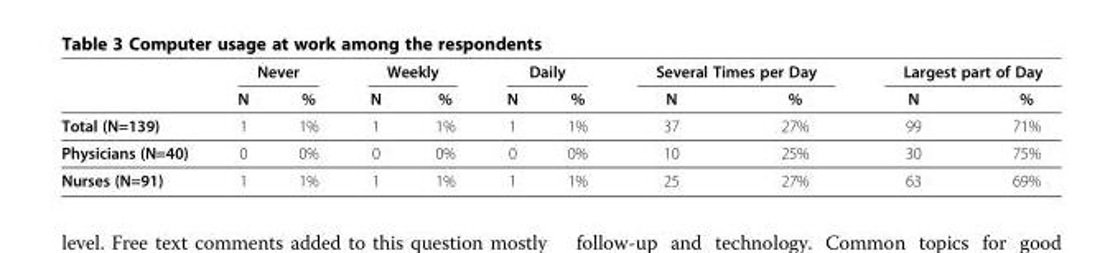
<table><thead><tr><td rowspan="2"></td><td colspan="2">Never</td><td colspan="2">Weekly</td><td colspan="2">Daily</td><td colspan="2">Several Times per Day</td><td colspan="2">Largest part of Day</td></tr><tr><td>N</td><td>%</td><td>N</td><td>%</td><td>N</td><td>%</td><td>N</td><td>%</td><td>N</td><td>%</td></tr></thead><tbody><tr><td>Total (N=139)</td><td>1</td><td>1%</td><td>1</td><td>1%</td><td>1</td><td>1%</td><td>37</td><td>27%</td><td>99</td><td>71%</td></tr><tr><td>Physicians (N=40)</td><td>0</td><td>0%</td><td>0</td><td>0%</td><td>0</td><td>0%</td><td>10</td><td>25%</td><td>30</td><td>75%</td></tr><tr><td>Nurses (N=91)</td><td>1</td><td>1%</td><td>1</td><td>1%</td><td>1</td><td>1%</td><td>25</td><td>27%</td><td>63</td><td>69%</td></tr></tbody></table>